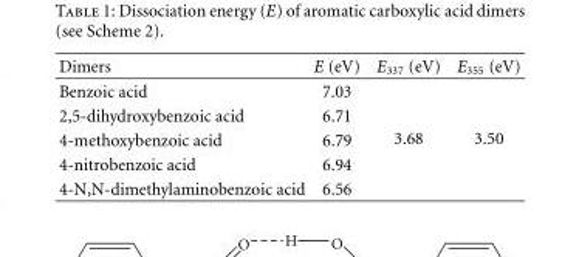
<table><thead><tr><td>Dimers</td><td>E (eV)</td><td>E<sub>337</sub> (eV)</td><td>E<sub>355</sub> (eV)</td></tr></thead><tbody><tr><td>Benzoic acid</td><td>7.03</td><td rowspan="5">3.68</td><td rowspan="5">3.50</td></tr><tr><td>2,5-dihydroxybenzoic acid</td><td>6.71</td></tr><tr><td>4-methoxybenzoic acid</td><td>6.79</td></tr><tr><td>4-nitrobenzoic acid</td><td>6.94</td></tr><tr><td>4-N,N-dimethylaminobenzoic acid</td><td>6.56</td></tr></tbody></table>